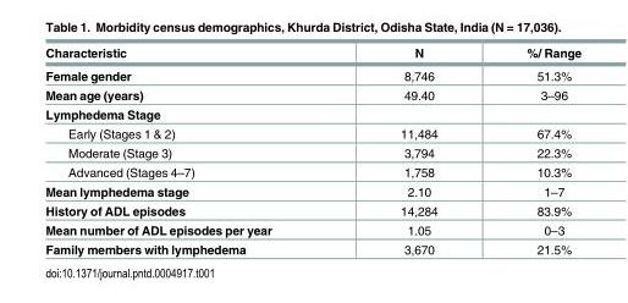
<table><thead><tr><td>Characteristic</td><td>N</td><td>%/ Range</td></tr></thead><tbody><tr><td>Female gender</td><td>8,746</td><td>51.3%</td></tr><tr><td>Mean age (years)</td><td>49.40</td><td>3–96</td></tr><tr><td colspan="3">Lymphedema Stage</td></tr><tr><td>Early (Stages 1 &amp; 2)</td><td>11,484</td><td>67.4%</td></tr><tr><td>Moderate (Stage 3)</td><td>3,794</td><td>22.3%</td></tr><tr><td>Advanced (Stages 4–7)</td><td>1,758</td><td>10.3%</td></tr><tr><td>Mean lymphedema stage</td><td>2.10</td><td>1–7</td></tr><tr><td>History of ADL episodes</td><td>14,284</td><td>83.9%</td></tr><tr><td>Mean number of ADL episodes per year</td><td>1.05</td><td>0–3</td></tr><tr><td>Family members with lymphedema</td><td>3,670</td><td>21.5%</td></tr></tbody></table>